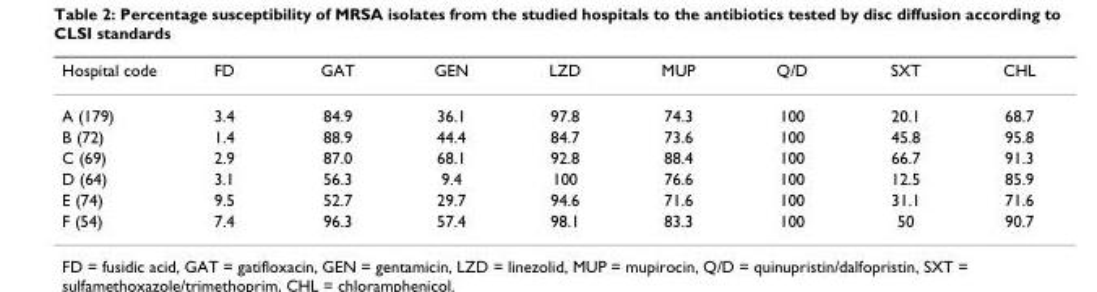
<table><thead><tr><td>Hospital code</td><td>FD</td><td>GAT</td><td>GEN</td><td>LZD</td><td>MUP</td><td>Q/D</td><td>SXT</td><td>CHL</td></tr></thead><tbody><tr><td>A (179)</td><td>3.4</td><td>84.9</td><td>36.1</td><td>97.8</td><td>74.3</td><td>100</td><td>20.1</td><td>68.7</td></tr><tr><td>B (72)</td><td>1.4</td><td>88.9</td><td>44.4</td><td>84.7</td><td>73.6</td><td>100</td><td>45.8</td><td>95.8</td></tr><tr><td>C (69)</td><td>2.9</td><td>87.0</td><td>68.1</td><td>92.8</td><td>88.4</td><td>100</td><td>66.7</td><td>91.3</td></tr><tr><td>D (64)</td><td>3.1</td><td>56.3</td><td>9.4</td><td>100</td><td>76.6</td><td>100</td><td>12.5</td><td>85.9</td></tr><tr><td>E (74)</td><td>9.5</td><td>52.7</td><td>29.7</td><td>94.6</td><td>71.6</td><td>100</td><td>31.1</td><td>71.6</td></tr><tr><td>F (54)</td><td>7.4</td><td>96.3</td><td>57.4</td><td>98.1</td><td>83.3</td><td>100</td><td>50</td><td>90.7</td></tr></tbody></table>